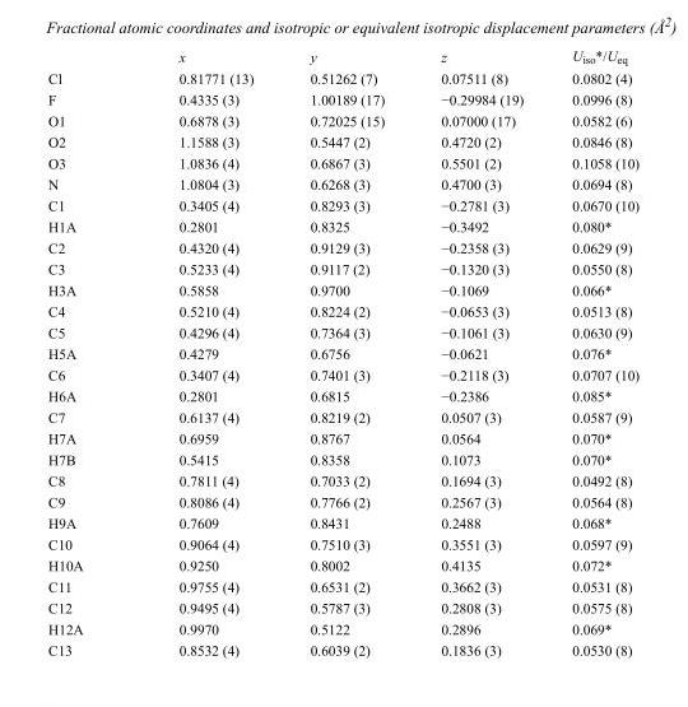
<table><thead><tr><td></td><td>x</td><td>y</td><td>z</td><td>U<sub>iso</sub>*/U<sub>eq</sub></td></tr></thead><tbody><tr><td>Cl</td><td>0.81771 (13)</td><td>0.51262 (7)</td><td>0.07511 (8)</td><td>0.0802 (4)</td></tr><tr><td>F</td><td>0.4335 (3)</td><td>1.00189 (17)</td><td>−0.29984 (19)</td><td>0.0996 (8)</td></tr><tr><td>O1</td><td>0.6878 (3)</td><td>0.72025 (15)</td><td>0.07000 (17)</td><td>0.0582 (6)</td></tr><tr><td>O2</td><td>1.1588 (3)</td><td>0.5447 (2)</td><td>0.4720 (2)</td><td>0.0846 (8)</td></tr><tr><td>O3</td><td>1.0836 (4)</td><td>0.6867 (3)</td><td>0.5501 (2)</td><td>0.1058 (10)</td></tr><tr><td>N</td><td>1.0804 (3)</td><td>0.6268 (3)</td><td>0.4700 (3)</td><td>0.0694 (8)</td></tr><tr><td>C1</td><td>0.3405 (4)</td><td>0.8293 (3)</td><td>−0.2781 (3)</td><td>0.0670 (10)</td></tr><tr><td>H1A</td><td>0.2801</td><td>0.8325</td><td>−0.3492</td><td>0.080*</td></tr><tr><td>C2</td><td>0.4320 (4)</td><td>0.9129 (3)</td><td>−0.2358 (3)</td><td>0.0629 (9)</td></tr><tr><td>C3</td><td>0.5233 (4)</td><td>0.9117 (2)</td><td>−0.1320 (3)</td><td>0.0550 (8)</td></tr><tr><td>H3A</td><td>0.5858</td><td>0.9700</td><td>−0.1069</td><td>0.066*</td></tr><tr><td>C4</td><td>0.5210 (4)</td><td>0.8224 (2)</td><td>−0.0653 (3)</td><td>0.0513 (8)</td></tr><tr><td>C5</td><td>0.4296 (4)</td><td>0.7364 (3)</td><td>−0.1061 (3)</td><td>0.0630 (9)</td></tr><tr><td>H5A</td><td>0.4279</td><td>0.6756</td><td>−0.0621</td><td>0.076*</td></tr><tr><td>C6</td><td>0.3407 (4)</td><td>0.7401 (3)</td><td>−0.2118 (3)</td><td>0.0707 (10)</td></tr><tr><td>H6A</td><td>0.2801</td><td>0.6815</td><td>−0.2386</td><td>0.085*</td></tr><tr><td>C7</td><td>0.6137 (4)</td><td>0.8219 (2)</td><td>0.0507 (3)</td><td>0.0587 (9)</td></tr><tr><td>H7A</td><td>0.6959</td><td>0.8767</td><td>0.0564</td><td>0.070*</td></tr><tr><td>H7B</td><td>0.5415</td><td>0.8358</td><td>0.1073</td><td>0.070*</td></tr><tr><td>C8</td><td>0.7811 (4)</td><td>0.7033 (2)</td><td>0.1694 (3)</td><td>0.0492 (8)</td></tr><tr><td>C9</td><td>0.8086 (4)</td><td>0.7766 (2)</td><td>0.2567 (3)</td><td>0.0564 (8)</td></tr><tr><td>H9A</td><td>0.7609</td><td>0.8431</td><td>0.2488</td><td>0.068*</td></tr><tr><td>C10</td><td>0.9064 (4)</td><td>0.7510 (3)</td><td>0.3551 (3)</td><td>0.0597 (9)</td></tr><tr><td>H10A</td><td>0.9250</td><td>0.8002</td><td>0.4135</td><td>0.072*</td></tr><tr><td>C11</td><td>0.9755 (4)</td><td>0.6531 (2)</td><td>0.3662 (3)</td><td>0.0531 (8)</td></tr><tr><td>C12</td><td>0.9495 (4)</td><td>0.5787 (3)</td><td>0.2808 (3)</td><td>0.0575 (8)</td></tr><tr><td>H12A</td><td>0.9970</td><td>0.5122</td><td>0.2896</td><td>0.069*</td></tr><tr><td>C13</td><td>0.8532 (4)</td><td>0.6039 (2)</td><td>0.1836 (3)</td><td>0.0530 (8)</td></tr></tbody></table>